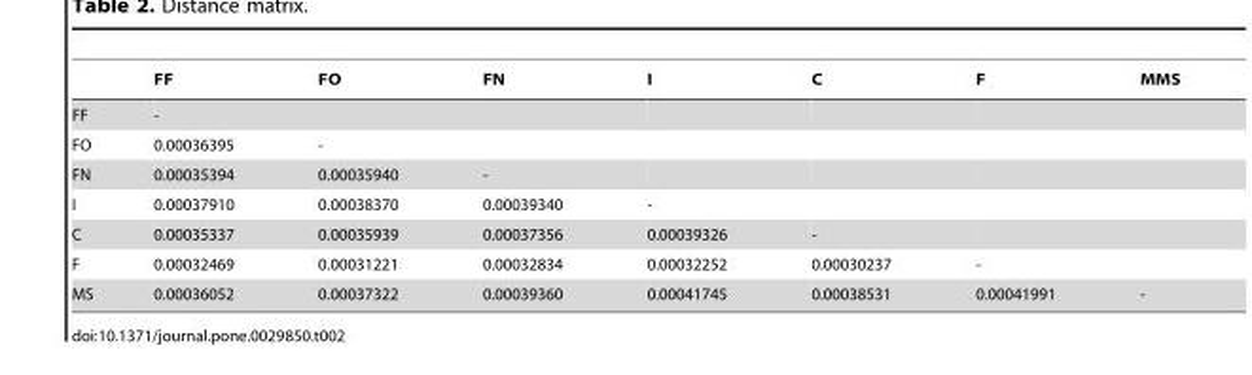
<table><thead><tr><td></td><td>FF</td><td>FO</td><td>FN</td><td>I</td><td>C</td><td>F</td><td>MMS</td></tr></thead><tbody><tr><td>FF</td><td>-</td><td></td><td></td><td></td><td></td><td></td><td></td></tr><tr><td>FO</td><td>0.00036395</td><td>-</td><td></td><td></td><td></td><td></td><td></td></tr><tr><td>FN</td><td>0.00035394</td><td>0.00035940</td><td>-</td><td></td><td></td><td></td><td></td></tr><tr><td>I</td><td>0.00037910</td><td>0.00038370</td><td>0.00039340</td><td>-</td><td></td><td></td><td></td></tr><tr><td>C</td><td>0.00035337</td><td>0.00035939</td><td>0.00037356</td><td>0.00039326</td><td>-</td><td></td><td></td></tr><tr><td>F</td><td>0.00032469</td><td>0.00031221</td><td>0.00032834</td><td>0.00032252</td><td>0.00030237</td><td>-</td><td></td></tr><tr><td>MS</td><td>0.00036052</td><td>0.00037322</td><td>0.00039360</td><td>0.00041745</td><td>0.00038531</td><td>0.00041991</td><td>-</td></tr></tbody></table>